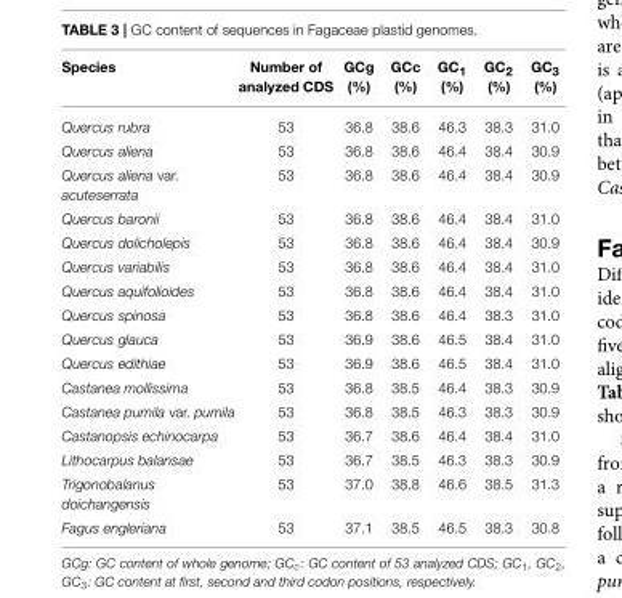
<table><thead><tr><td>Species</td><td>Number of analyzed CDS</td><td>GCg (%)</td><td>GCc (%)</td><td>GC<sub>1</sub> (%)</td><td>GC<sub>2</sub> (%)</td><td>GC<sub>3</sub> (%)</td></tr></thead><tbody><tr><td>Quercus rubra</td><td>53</td><td>36.8</td><td>38.6</td><td>46.3</td><td>38.3</td><td>31.0</td></tr><tr><td>Quercus aliena</td><td>53</td><td>36.8</td><td>38.6</td><td>46.4</td><td>38.4</td><td>30.9</td></tr><tr><td>Quercus aliena var. acuteserrata</td><td>53</td><td>36.8</td><td>38.6</td><td>46.4</td><td>38.4</td><td>30.9</td></tr><tr><td>Quercus baronii</td><td>53</td><td>36.8</td><td>38.6</td><td>46.4</td><td>38.4</td><td>31.0</td></tr><tr><td>Quercus dolicholepis</td><td>53</td><td>36.8</td><td>38.6</td><td>46.4</td><td>38.4</td><td>30.9</td></tr><tr><td>Quercus variabilis</td><td>53</td><td>36.8</td><td>38.6</td><td>46.4</td><td>38.4</td><td>31.0</td></tr><tr><td>Quercus aquifolioides</td><td>53</td><td>36.8</td><td>38.6</td><td>46.4</td><td>38.4</td><td>31.0</td></tr><tr><td>Quercus spinosa</td><td>53</td><td>36.8</td><td>38.6</td><td>46.4</td><td>38.3</td><td>31.0</td></tr><tr><td>Quercus glauca</td><td>53</td><td>36.9</td><td>38.6</td><td>46.5</td><td>38.4</td><td>31.0</td></tr><tr><td>Quercus edithiae</td><td>53</td><td>36.9</td><td>38.6</td><td>46.5</td><td>38.4</td><td>31.0</td></tr><tr><td>Castanea mollissima</td><td>53</td><td>36.8</td><td>38.5</td><td>46.4</td><td>38.3</td><td>30.9</td></tr><tr><td>Castanea pumila var. pumila</td><td>53</td><td>36.8</td><td>38.5</td><td>46.3</td><td>38.3</td><td>30.9</td></tr><tr><td>Castanopsis echinocarpa</td><td>53</td><td>36.7</td><td>38.6</td><td>46.4</td><td>38.4</td><td>31.0</td></tr><tr><td>Lithocarpus balansae</td><td>53</td><td>36.7</td><td>38.5</td><td>46.3</td><td>38.3</td><td>30.9</td></tr><tr><td>Trigonobalanus doichangensis</td><td>53</td><td>37.0</td><td>38.8</td><td>46.6</td><td>38.5</td><td>31.3</td></tr><tr><td>Fagus engleriana</td><td>53</td><td>37.1</td><td>38.5</td><td>46.5</td><td>38.3</td><td>30.8</td></tr></tbody></table>